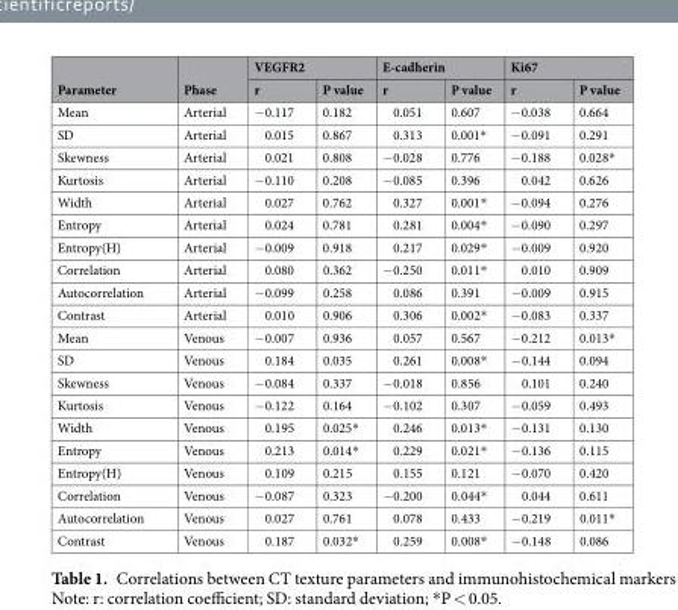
<table><thead><tr><td rowspan="2">Parameter</td><td rowspan="2">Phase</td><td colspan="2">VEGFR2</td><td colspan="2">E-cadherin</td><td colspan="2">Ki67</td></tr><tr><td>r</td><td>P value</td><td>r</td><td>P value</td><td>r</td><td>P value</td></tr></thead><tbody><tr><td>Mean</td><td>Arterial</td><td>−0.117</td><td>0.182</td><td>0.051</td><td>0.607</td><td>−0.038</td><td>0.664</td></tr><tr><td>SD</td><td>Arterial</td><td>0.015</td><td>0.867</td><td>0.313</td><td>0.001*</td><td>−0.091</td><td>0.291</td></tr><tr><td>Skewness</td><td>Arterial</td><td>0.021</td><td>0.808</td><td>−0.028</td><td>0.776</td><td>−0.188</td><td>0.028*</td></tr><tr><td>Kurtosis</td><td>Arterial</td><td>−0.110</td><td>0.208</td><td>−0.085</td><td>0.396</td><td>0.042</td><td>0.626</td></tr><tr><td>Width</td><td>Arterial</td><td>0.027</td><td>0.762</td><td>0.327</td><td>0.001*</td><td>−0.094</td><td>0.276</td></tr><tr><td>Entropy</td><td>Arterial</td><td>0.024</td><td>0.781</td><td>0.281</td><td>0.004*</td><td>−0.090</td><td>0.297</td></tr><tr><td>Entropy(H)</td><td>Arterial</td><td>−0.009</td><td>0.918</td><td>0.217</td><td>0.029*</td><td>−0.009</td><td>0.920</td></tr><tr><td>Correlation</td><td>Arterial</td><td>0.080</td><td>0.362</td><td>−0.250</td><td>0.011*</td><td>0.010</td><td>0.909</td></tr><tr><td>Autocorrelation</td><td>Arterial</td><td>−0.099</td><td>0.258</td><td>0.086</td><td>0.391</td><td>−0.009</td><td>0.915</td></tr><tr><td>Contrast</td><td>Arterial</td><td>0.010</td><td>0.906</td><td>0.306</td><td>0.002*</td><td>−0.083</td><td>0.337</td></tr><tr><td>Mean</td><td>Venous</td><td>−0.007</td><td>0.936</td><td>0.057</td><td>0.567</td><td>−0.212</td><td>0.013*</td></tr><tr><td>SD</td><td>Venous</td><td>0.184</td><td>0.035</td><td>0.261</td><td>0.008*</td><td>−0.144</td><td>0.094</td></tr><tr><td>Skewness</td><td>Venous</td><td>−0.084</td><td>0.337</td><td>−0.018</td><td>0.856</td><td>0.101</td><td>0.240</td></tr><tr><td>Kurtosis</td><td>Venous</td><td>−0.122</td><td>0.164</td><td>−0.102</td><td>0.307</td><td>−0.059</td><td>0.493</td></tr><tr><td>Width</td><td>Venous</td><td>0.195</td><td>0.025*</td><td>0.246</td><td>0.013*</td><td>−0.131</td><td>0.130</td></tr><tr><td>Entropy</td><td>Venous</td><td>0.213</td><td>0.014*</td><td>0.229</td><td>0.021*</td><td>−0.136</td><td>0.115</td></tr><tr><td>Entropy(H)</td><td>Venous</td><td>0.109</td><td>0.215</td><td>0.155</td><td>0.121</td><td>−0.070</td><td>0.420</td></tr><tr><td>Correlation</td><td>Venous</td><td>−0.087</td><td>0.323</td><td>−0.200</td><td>0.044*</td><td>0.044</td><td>0.611</td></tr><tr><td>Autocorrelation</td><td>Venous</td><td>0.027</td><td>0.761</td><td>0.078</td><td>0.433</td><td>−0.219</td><td>0.011*</td></tr><tr><td>Contrast</td><td>Venous</td><td>0.187</td><td>0.032*</td><td>0.259</td><td>0.008*</td><td>−0.148</td><td>0.086</td></tr></tbody></table>